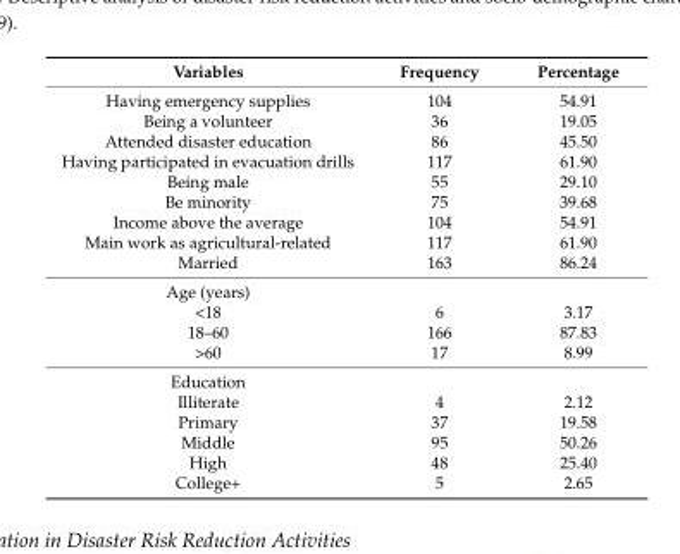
<table><thead><tr><td>Variables</td><td>Frequency</td><td>Percentage</td></tr></thead><tbody><tr><td>Having emergency supplies</td><td>104</td><td>54.91</td></tr><tr><td>Being a volunteer</td><td>36</td><td>19.05</td></tr><tr><td>Attended disaster education</td><td>86</td><td>45.50</td></tr><tr><td>Having participated in evacuation drills</td><td>117</td><td>61.90</td></tr><tr><td>Being male</td><td>55</td><td>29.10</td></tr><tr><td>Be minority</td><td>75</td><td>39.68</td></tr><tr><td>Income above the average</td><td>104</td><td>54.91</td></tr><tr><td>Main work as agricultural-related</td><td>117</td><td>61.90</td></tr><tr><td>Married</td><td>163</td><td>86.24</td></tr><tr><td colspan="3">Age (years)</td></tr><tr><td>&lt;18</td><td>6</td><td>3.17</td></tr><tr><td>18–60</td><td>166</td><td>87.83</td></tr><tr><td>&gt;60</td><td>17</td><td>8.99</td></tr><tr><td colspan="3">Education</td></tr><tr><td>Illiterate</td><td>4</td><td>2.12</td></tr><tr><td>Primary</td><td>37</td><td>19.58</td></tr><tr><td>Middle</td><td>95</td><td>50.26</td></tr><tr><td>High</td><td>48</td><td>25.40</td></tr><tr><td>College+</td><td>5</td><td>2.65</td></tr></tbody></table>